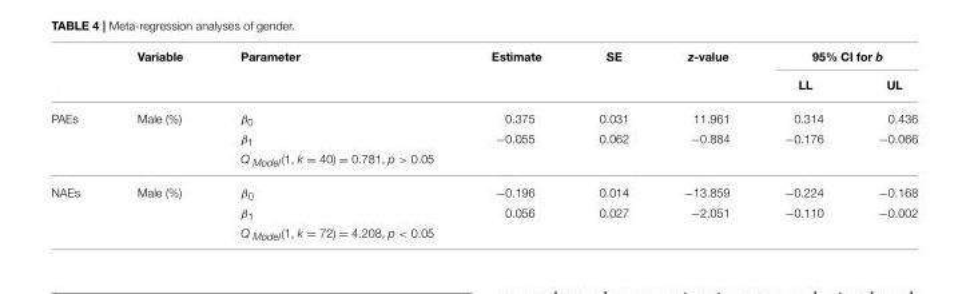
<table><thead><tr><td rowspan="2"></td><td rowspan="2">Variable</td><td rowspan="2">Parameter</td><td rowspan="2">Estimate</td><td rowspan="2">SE</td><td rowspan="2">z-value</td><td colspan="2">95% CI for b</td></tr><tr><td>LL</td><td>UL</td></tr></thead><tbody><tr><td rowspan="3">PAEs</td><td>Male (%)</td><td>β<sub>0</sub></td><td>0.375</td><td>0.031</td><td>11.961</td><td>0.314</td><td>0.436</td></tr><tr><td></td><td>β<sub>1</sub></td><td>−0.055</td><td>0.062</td><td>−0.884</td><td>−0.176</td><td>−0.066</td></tr><tr><td></td><td>Q Model(1, k = 40) = 0.781, p &gt; 0.05</td><td></td><td></td><td></td><td></td><td></td></tr><tr><td rowspan="3">NAEs</td><td>Male (%)</td><td>β<sub>0</sub></td><td>−0.196</td><td>0.014</td><td>−13.859</td><td>−0.224</td><td>−0.168</td></tr><tr><td></td><td>β<sub>1</sub></td><td>0.056</td><td>0.027</td><td>−2.051</td><td>−0.110</td><td>−0.002</td></tr><tr><td></td><td>Q Model(1, k = 72) = 4.208, p &lt; 0.05</td><td></td><td></td><td></td><td></td><td></td></tr></tbody></table>